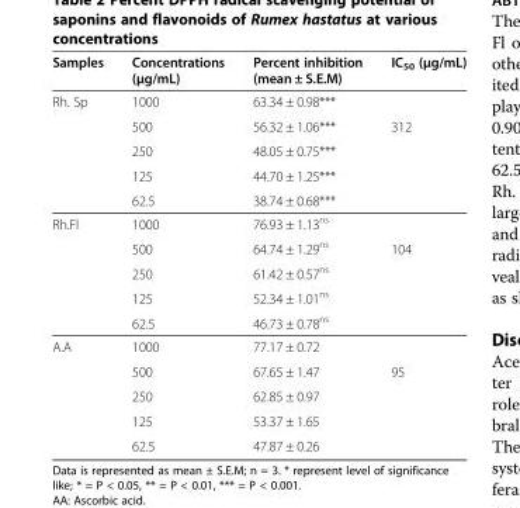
<table><thead><tr><td>Samples</td><td>Concentrations (μg/mL)</td><td>Percent inhibition (mean ± S.E.M)</td><td>IC<sub>50</sub> (μg/mL)</td></tr></thead><tbody><tr><td rowspan="5">Rh. Sp</td><td>1000</td><td>63.34 ± 0.98***</td><td></td></tr><tr><td>500</td><td>56.32 ± 1.06***</td><td>312</td></tr><tr><td>250</td><td>48.05 ± 0.75***</td><td></td></tr><tr><td>125</td><td>44.70 ± 1.25***</td><td></td></tr><tr><td>62.5</td><td>38.74 ± 0.68***</td><td></td></tr><tr><td rowspan="5">Rh.Fl</td><td>1000</td><td>76.93 ± 1.13<sup>ns</sup></td><td></td></tr><tr><td>500</td><td>64.74 ± 1.29<sup>ns</sup></td><td>104</td></tr><tr><td>250</td><td>61.42 ± 0.57<sup>ns</sup></td><td></td></tr><tr><td>125</td><td>52.34 ± 1.01<sup>ns</sup></td><td></td></tr><tr><td>62.5</td><td>46.73 ± 0.78<sup>ns</sup></td><td></td></tr><tr><td rowspan="5">A.A</td><td>1000</td><td>77.17 ± 0.72</td><td></td></tr><tr><td>500</td><td>67.65 ± 1.47</td><td>95</td></tr><tr><td>250</td><td>62.85 ± 0.97</td><td></td></tr><tr><td>125</td><td>53.37 ± 1.65</td><td></td></tr><tr><td>62.5</td><td>47.87 ± 0.26</td><td></td></tr></tbody></table>